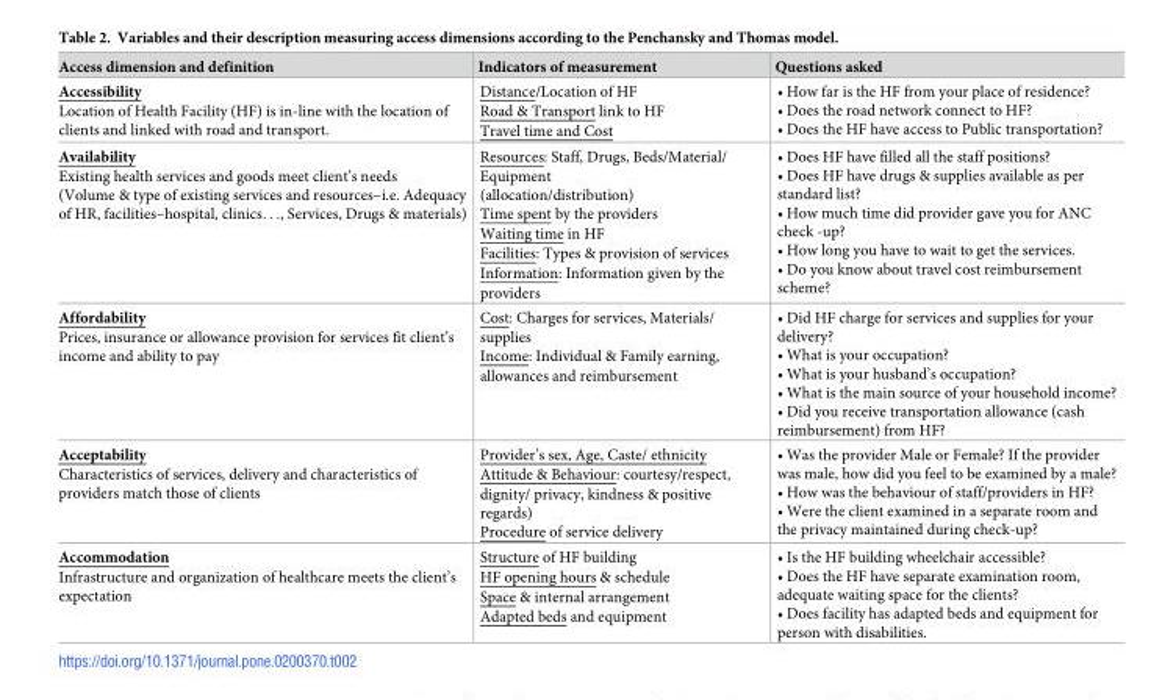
<table><thead><tr><td>Access dimension and definition</td><td>Indicators of measurement</td><td>Questions asked</td></tr></thead><tbody><tr><td>Accessibility Location of Health Facility (HF) is in-line with the location of clients and linked with road and transport.</td><td>Distance/Location of HF Road &amp; Transport link to HF Travel time and Cost</td><td>• How far is the HF from your place of residence? • Does the road network connect to HF? • Does the HF have access to Public transportation?</td></tr><tr><td>Availability Existing health services and goods meet client’s needs (Volume &amp; type of existing services and resources–i.e. Adequacy of HR, facilities–hospital, clinics. . ., Services, Drugs &amp; materials)</td><td>Resources: Staff, Drugs, Beds/Material/ Equipment (allocation/distribution) Time spent by the providers Waiting time in HF Facilities: Types &amp; provision of services Information: Information given by the providers</td><td>• Does HF have filled all the staff positions? • Does HF have drugs &amp; supplies available as per standard list? • How much time did provider gave you for ANC check -up? • How long you have to wait to get the services. • Do you know about travel cost reimbursement scheme?</td></tr><tr><td>Affordability Prices, insurance or allowance provision for services fit client’s income and ability to pay</td><td>Cost: Charges for services, Materials/ supplies Income: Individual &amp; Family earning, allowances and reimbursement</td><td>• Did HF charge for services and supplies for your delivery? • What is your occupation? • What is your husband’s occupation? • What is the main source of your household income? • Did you receive transportation allowance (cash reimbursement) from HF?</td></tr><tr><td>Acceptability Characteristics of services, delivery and characteristics of providers match those of clients</td><td>Provider’s sex, Age, Caste/ ethnicity Attitude &amp; Behaviour: courtesy/respect, dignity/ privacy, kindness &amp; positive regards) Procedure of service delivery</td><td>• Was the provider Male or Female? If the provider was male, how did you feel to be examined by a male? • How was the behaviour of staff/providers in HF? • Were the client examined in a separate room and the privacy maintained during check-up?</td></tr><tr><td>Accommodation Infrastructure and organization of healthcare meets the client’s expectation</td><td>Structure of HF building HF opening hours &amp; schedule Space &amp; internal arrangement Adapted beds and equipment</td><td>• Is the HF building wheelchair accessible? • Does the HF have separate examination room, adequate waiting space for the clients? • Does facility has adapted beds and equipment for person with disabilities.</td></tr></tbody></table>